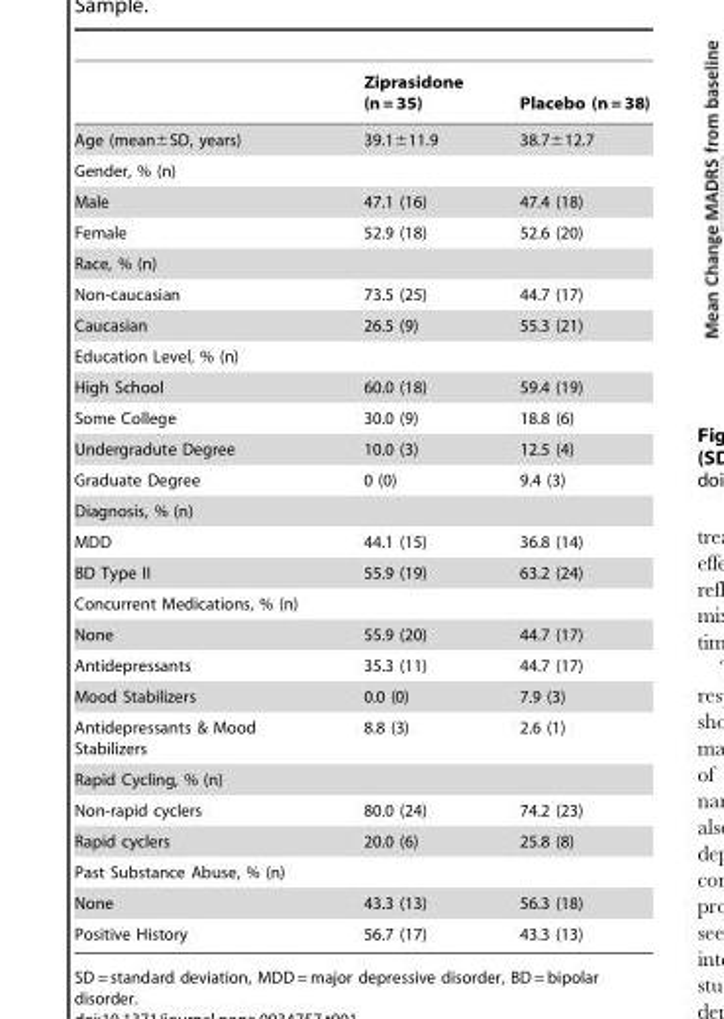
<table><thead><tr><td></td><td>Ziprasidone (n = 35)</td><td>Placebo (n = 38)</td></tr></thead><tbody><tr><td>Age (mean±SD, years)</td><td>39.1±11.9</td><td>38.7±12.7</td></tr><tr><td colspan="3">Gender, % (n)</td></tr><tr><td>Male</td><td>47.1 (16)</td><td>47.4 (18)</td></tr><tr><td>Female</td><td>52.9 (18)</td><td>52.6 (20)</td></tr><tr><td colspan="3">Race, % (n)</td></tr><tr><td>Non-caucasian</td><td>73.5 (25)</td><td>44.7 (17)</td></tr><tr><td>Caucasian</td><td>26.5 (9)</td><td>55.3 (21)</td></tr><tr><td colspan="3">Education Level, % (n)</td></tr><tr><td>High School</td><td>60.0 (18)</td><td>59.4 (19)</td></tr><tr><td>Some College</td><td>30.0 (9)</td><td>18.8 (6)</td></tr><tr><td>Undergradute Degree</td><td>10.0 (3)</td><td>12.5 (4)</td></tr><tr><td>Graduate Degree</td><td>0 (0)</td><td>9.4 (3)</td></tr><tr><td colspan="3">Diagnosis, % (n)</td></tr><tr><td>MDD</td><td>44.1 (15)</td><td>36.8 (14)</td></tr><tr><td>BD Type II</td><td>55.9 (19)</td><td>63.2 (24)</td></tr><tr><td colspan="3">Concurrent Medications, % (n)</td></tr><tr><td>None</td><td>55.9 (20)</td><td>44.7 (17)</td></tr><tr><td>Antidepressants</td><td>35.3 (11)</td><td>44.7 (17)</td></tr><tr><td>Mood Stabilizers</td><td>0.0 (0)</td><td>7.9 (3)</td></tr><tr><td>Antidepressants &amp; Mood Stabilizers</td><td>8.8 (3)</td><td>2.6 (1)</td></tr><tr><td colspan="3">Rapid Cycling, % (n)</td></tr><tr><td>Non-rapid cyclers</td><td>80.0 (24)</td><td>74.2 (23)</td></tr><tr><td>Rapid cyclers</td><td>20.0 (6)</td><td>25.8 (8)</td></tr><tr><td colspan="3">Past Substance Abuse, % (n)</td></tr><tr><td>None</td><td>43.3 (13)</td><td>56.3 (18)</td></tr><tr><td>Positive History</td><td>56.7 (17)</td><td>43.3 (13)</td></tr></tbody></table>